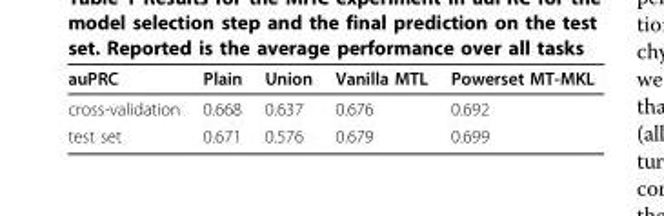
<table><thead><tr><td>auPRC</td><td>Plain</td><td>Union</td><td>Vanilla MTL</td><td>Powerset MT-MKL</td></tr></thead><tbody><tr><td>cross-validation</td><td>0.668</td><td>0.637</td><td>0.676</td><td>0.692</td></tr><tr><td>test set</td><td>0.671</td><td>0.576</td><td>0.679</td><td>0.699</td></tr></tbody></table>